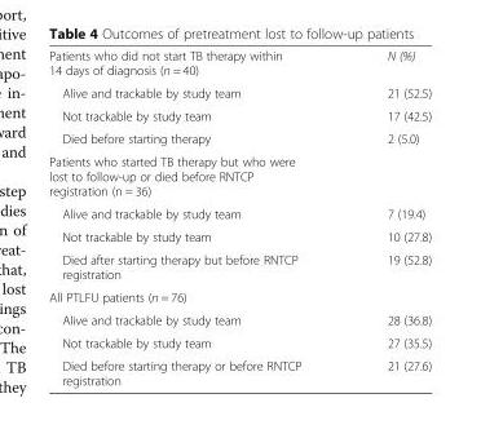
<table><tbody><tr><td>Patients who did not start TB therapy within 14 days of diagnosis (n = 40)</td><td>N (%)</td></tr><tr><td>Alive and trackable by study team</td><td>21 (52.5)</td></tr><tr><td>Not trackable by study team</td><td>17 (42.5)</td></tr><tr><td>Died before starting therapy</td><td>2 (5.0)</td></tr><tr><td colspan="2">Patients who started TB therapy but who were lost to follow-up or died before RNTCP registration (n = 36)</td></tr><tr><td>Alive and trackable by study team</td><td>7 (19.4)</td></tr><tr><td>Not trackable by study team</td><td>10 (27.8)</td></tr><tr><td>Died after starting therapy but before RNTCP registration</td><td>19 (52.8)</td></tr><tr><td colspan="2">All PTLFU patients (n = 76)</td></tr><tr><td>Alive and trackable by study team</td><td>28 (36.8)</td></tr><tr><td>Not trackable by study team</td><td>27 (35.5)</td></tr><tr><td>Died before starting therapy or before RNTCP registration</td><td>21 (27.6)</td></tr></tbody></table>